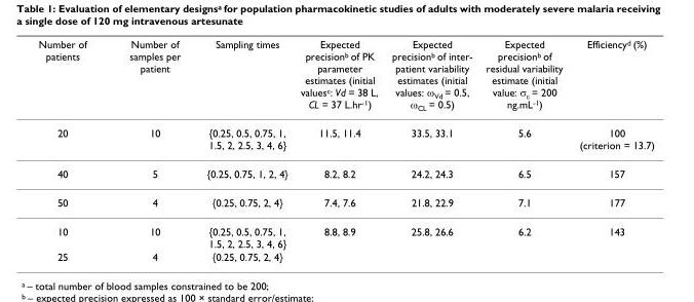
<table><thead><tr><td>Number of patients</td><td>Number of samples per patient</td><td>Sampling times</td><td>Expected precision<sup>b</sup> of PK parameter estimates (initial values<sup>c</sup>: Vd = 38 L, CL = 37 L.hr<sup>-1</sup>)</td><td>Expected precision<sup>b</sup> of inter- patient variability estimates (initial values: ω<sub>Vd</sub> = 0.5, ω<sub>CL</sub> = 0.5)</td><td>Expected precision<sup>b</sup> of residual variability estimate (initial value: σ<sub>ε</sub> = 200 ng.mL<sup>-1</sup>)</td><td>Efficiency<sup>d</sup> (%)</td></tr></thead><tbody><tr><td>20</td><td>10</td><td>{0.25, 0.5, 0.75, 1, 1.5, 2, 2.5, 3, 4, 6}</td><td>11.5, 11.4</td><td>33.5, 33.1</td><td>5.6</td><td>100 (criterion = 13.7)</td></tr><tr><td>40</td><td>5</td><td>{0.25, 0.75, 1, 2, 4}</td><td>8.2, 8.2</td><td>24.2, 24.3</td><td>6.5</td><td>157</td></tr><tr><td>50</td><td>4</td><td>{0.25, 0.75, 2, 4}</td><td>7.4, 7.6</td><td>21.8, 22.9</td><td>7.1</td><td>177</td></tr><tr><td>10</td><td>10</td><td>{0.25, 0.5, 0.75, 1, 1.5, 2, 2.5, 3, 4, 6}</td><td>8.8, 8.9</td><td>25.8, 26.6</td><td>6.2</td><td>143</td></tr><tr><td>25</td><td>4</td><td>{0.25, 0.75, 2, 4}</td><td></td><td></td><td></td><td></td></tr></tbody></table>